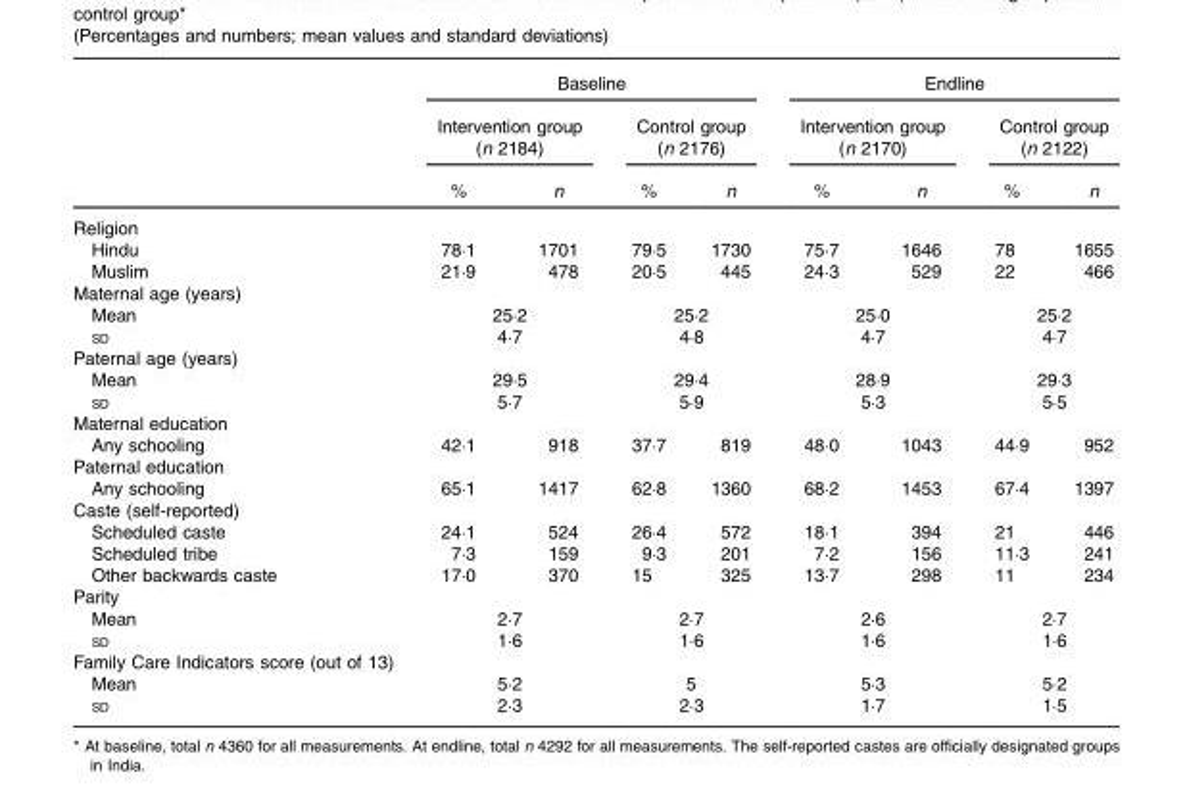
<table><thead><tr><td rowspan="3"></td><td colspan="4">Baseline</td><td colspan="4">Endline</td></tr><tr><td colspan="2">Intervention group (n 2184)</td><td colspan="2">Control group (n 2176)</td><td colspan="2">Intervention group (n 2170)</td><td colspan="2">Control group (n 2122)</td></tr><tr><td>%</td><td>n</td><td>%</td><td>n</td><td>%</td><td>n</td><td>%</td><td>n</td></tr></thead><tbody><tr><td colspan="9">Religion</td></tr><tr><td>Hindu</td><td>78·1</td><td>1701</td><td>79·5</td><td>1730</td><td>75·7</td><td>1646</td><td>78</td><td>1655</td></tr><tr><td>Muslim</td><td>21·9</td><td>478</td><td>20·5</td><td>445</td><td>24·3</td><td>529</td><td>22</td><td>466</td></tr><tr><td colspan="9">Maternal age (years)</td></tr><tr><td>Mean</td><td colspan="2">25·2</td><td colspan="2">25·2</td><td colspan="2">25·0</td><td colspan="2">25·2</td></tr><tr><td>SD</td><td colspan="2">4·7</td><td colspan="2">4·8</td><td colspan="2">4·7</td><td colspan="2">4·7</td></tr><tr><td colspan="9">Paternal age (years)</td></tr><tr><td>Mean</td><td colspan="2">29·5</td><td colspan="2">29·4</td><td colspan="2">28·9</td><td colspan="2">29·3</td></tr><tr><td>SD</td><td colspan="2">5·7</td><td colspan="2">5·9</td><td colspan="2">5·3</td><td colspan="2">5·5</td></tr><tr><td colspan="9">Maternal education</td></tr><tr><td>Any schooling</td><td>42·1</td><td>918</td><td>37·7</td><td>819</td><td>48·0</td><td>1043</td><td>44·9</td><td>952</td></tr><tr><td colspan="9">Paternal education</td></tr><tr><td>Any schooling</td><td>65·1</td><td>1417</td><td>62·8</td><td>1360</td><td>68·2</td><td>1453</td><td>67·4</td><td>1397</td></tr><tr><td colspan="9">Caste (self-reported)</td></tr><tr><td>Scheduled caste</td><td>24·1</td><td>524</td><td>26·4</td><td>572</td><td>18·1</td><td>394</td><td>21</td><td>446</td></tr><tr><td>Scheduled tribe</td><td>7·3</td><td>159</td><td>9·3</td><td>201</td><td>7·2</td><td>156</td><td>11·3</td><td>241</td></tr><tr><td>Other backwards caste</td><td>17·0</td><td>370</td><td>15</td><td>325</td><td>13·7</td><td>298</td><td>11</td><td>234</td></tr><tr><td colspan="9">Parity</td></tr><tr><td>Mean</td><td colspan="2">2·7</td><td colspan="2">2·7</td><td colspan="2">2·6</td><td colspan="2">2·7</td></tr><tr><td>SD</td><td colspan="2">1·6</td><td colspan="2">1·6</td><td colspan="2">1·6</td><td colspan="2">1·6</td></tr><tr><td colspan="9">Family Care Indicators score (out of 13)</td></tr><tr><td>Mean</td><td colspan="2">5·2</td><td colspan="2">5</td><td colspan="2">5·3</td><td colspan="2">5·2</td></tr><tr><td>SD</td><td colspan="2">2·3</td><td colspan="2">2·3</td><td colspan="2">1·7</td><td colspan="2">1·5</td></tr></tbody></table>